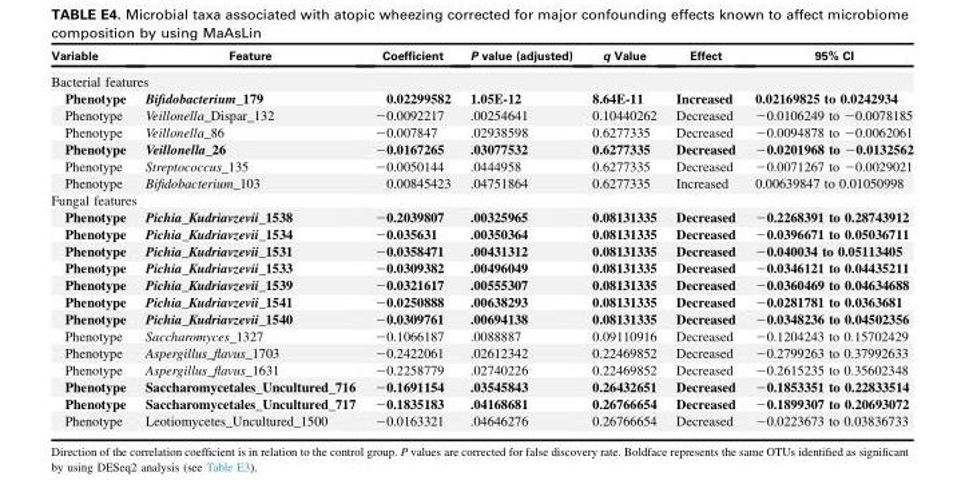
<table><thead><tr><td>Variable</td><td>Feature</td><td>Coefficient</td><td>P value (adjusted)</td><td>q Value</td><td>Effect</td><td>95% CI</td></tr></thead><tbody><tr><td colspan="7">Bacterial features</td></tr><tr><td>Phenotype</td><td>Bifidobacterium_179</td><td>0.02299582</td><td>1.05E-12</td><td>8.64E-11</td><td>Increased</td><td>0.02169825 to 0.0242934</td></tr><tr><td>Phenotype</td><td>Veillonella_Dispar_132</td><td>−0.0092217</td><td>.00254641</td><td>0.10440262</td><td>Decreased</td><td>−0.0106249 to −0.0078185</td></tr><tr><td>Phenotype</td><td>Veillonella_86</td><td>−0.007847</td><td>.02938598</td><td>0.6277335</td><td>Decreased</td><td>−0.0094878 to −0.0062061</td></tr><tr><td>Phenotype</td><td>Veillonella_26</td><td>−0.0167265</td><td>.03077532</td><td>0.6277335</td><td>Decreased</td><td>−0.0201968 to −0.0132562</td></tr><tr><td>Phenotype</td><td>Streptococcus_135</td><td>−0.0050144</td><td>.0444958</td><td>0.6277335</td><td>Decreased</td><td>−0.0071267 to −0.0029021</td></tr><tr><td>Phenotype</td><td>Bifidobacterium_103</td><td>0.00845423</td><td>.04751864</td><td>0.6277335</td><td>Increased</td><td>0.00639847 to 0.01050998</td></tr><tr><td colspan="7">Fungal features</td></tr><tr><td>Phenotype</td><td>Pichia_Kudriavzevii_1538</td><td>−0.2039807</td><td>.00325965</td><td>0.08131335</td><td>Decreased</td><td>−0.2268391 to 0.28743912</td></tr><tr><td>Phenotype</td><td>Pichia_Kudriavzevii_1534</td><td>−0.035631</td><td>.00350364</td><td>0.08131335</td><td>Decreased</td><td>−0.0396671 to 0.05036711</td></tr><tr><td>Phenotype</td><td>Pichia_Kudriavzevii_1531</td><td>−0.0358471</td><td>.00431312</td><td>0.08131335</td><td>Decreased</td><td>−0.040034 to 0.05113405</td></tr><tr><td>Phenotype</td><td>Pichia_Kudriavzevii_1533</td><td>−0.0309382</td><td>.00496049</td><td>0.08131335</td><td>Decreased</td><td>−0.0346121 to 0.04435211</td></tr><tr><td>Phenotype</td><td>Pichia_Kudriavzevii_1539</td><td>−0.0321617</td><td>.00555307</td><td>0.08131335</td><td>Decreased</td><td>−0.0360469 to 0.04634688</td></tr><tr><td>Phenotype</td><td>Pichia_Kudriavzevii_1541</td><td>−0.0250888</td><td>.00638293</td><td>0.08131335</td><td>Decreased</td><td>−0.0281781 to 0.0363681</td></tr><tr><td>Phenotype</td><td>Pichia_Kudriavzevii_1540</td><td>−0.0309761</td><td>.00694138</td><td>0.08131335</td><td>Decreased</td><td>−0.0348236 to 0.04502356</td></tr><tr><td>Phenotype</td><td>Saccharomyces_1327</td><td>−0.1066187</td><td>.0088887</td><td>0.09110916</td><td>Decreased</td><td>−0.1204243 to 0.15702429</td></tr><tr><td>Phenotype</td><td>Aspergillus_flavus_1703</td><td>−0.2422061</td><td>.02612342</td><td>0.22469852</td><td>Decreased</td><td>−0.2799263 to 0.37992633</td></tr><tr><td>Phenotype</td><td>Aspergillus_flavus_1631</td><td>−0.2258779</td><td>.02740226</td><td>0.22469852</td><td>Decreased</td><td>−0.2615235 to 0.35602348</td></tr><tr><td>Phenotype</td><td>Saccharomycetales_Uncultured_716</td><td>−0.1691154</td><td>.03545843</td><td>0.26432651</td><td>Decreased</td><td>−0.1853351 to 0.22833514</td></tr><tr><td>Phenotype</td><td>Saccharomycetales_Uncultured_717</td><td>−0.1835183</td><td>.04168681</td><td>0.26766654</td><td>Decreased</td><td>−0.1899307 to 0.20693072</td></tr><tr><td>Phenotype</td><td>Leotiomycetes_Uncultured_1500</td><td>−0.0163321</td><td>.04646276</td><td>0.26766654</td><td>Decreased</td><td>−0.0223673 to 0.03836733</td></tr></tbody></table>